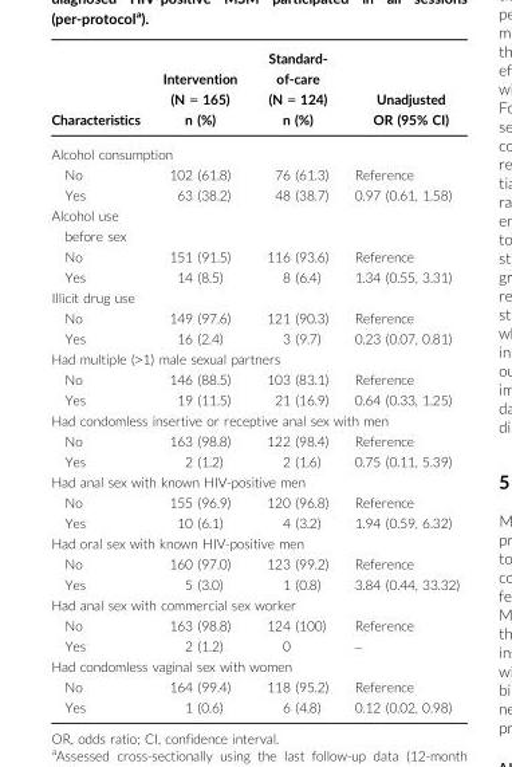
<table><thead><tr><td rowspan="2">Characteristics</td><td rowspan="2">Intervention (N = 165) n (%)</td><td rowspan="2">Standard- of-care (N = 124) n (%)</td><td rowspan="2">Unadjusted OR (95% CI)</td></tr><tr></tr></thead><tbody><tr><td colspan="4">Alcohol consumption</td></tr><tr><td>No</td><td>102 (61.8)</td><td>76 (61.3)</td><td>Reference</td></tr><tr><td>Yes</td><td>63 (38.2)</td><td>48 (38.7)</td><td>0.97 (0.61, 1.58)</td></tr><tr><td colspan="4">Alcohol use before sex</td></tr><tr><td>No</td><td>151 (91.5)</td><td>116 (93.6)</td><td>Reference</td></tr><tr><td>Yes</td><td>14 (8.5)</td><td>8 (6.4)</td><td>1.34 (0.55, 3.31)</td></tr><tr><td colspan="4">Illicit drug use</td></tr><tr><td>No</td><td>149 (97.6)</td><td>121 (90.3)</td><td>Reference</td></tr><tr><td>Yes</td><td>16 (2.4)</td><td>3 (9.7)</td><td>0.23 (0.07, 0.81)</td></tr><tr><td colspan="4">Had multiple (&gt;1) male sexual partners</td></tr><tr><td>No</td><td>146 (88.5)</td><td>103 (83.1)</td><td>Reference</td></tr><tr><td>Yes</td><td>19 (11.5)</td><td>21 (16.9)</td><td>0.64 (0.33, 1.25)</td></tr><tr><td colspan="4">Had condomless insertive or receptive anal sex with men</td></tr><tr><td>No</td><td>163 (98.8)</td><td>122 (98.4)</td><td>Reference</td></tr><tr><td>Yes</td><td>2 (1.2)</td><td>2 (1.6)</td><td>0.75 (0.11, 5.39)</td></tr><tr><td colspan="4">Had anal sex with known HIV-positive men</td></tr><tr><td>No</td><td>155 (96.9)</td><td>120 (96.8)</td><td>Reference</td></tr><tr><td>Yes</td><td>10 (6.1)</td><td>4 (3.2)</td><td>1.94 (0.59, 6.32)</td></tr><tr><td colspan="4">Had oral sex with known HIV-positive men</td></tr><tr><td>No</td><td>160 (97.0)</td><td>123 (99.2)</td><td>Reference</td></tr><tr><td>Yes</td><td>5 (3.0)</td><td>1 (0.8)</td><td>3.84 (0.44, 33.32)</td></tr><tr><td colspan="4">Had anal sex with commercial sex worker</td></tr><tr><td>No</td><td>163 (98.8)</td><td>124 (100)</td><td>Reference</td></tr><tr><td>Yes</td><td>2 (1.2)</td><td>0</td><td>–</td></tr><tr><td colspan="4">Had condomless vaginal sex with women</td></tr><tr><td>No</td><td>164 (99.4)</td><td>118 (95.2)</td><td>Reference</td></tr><tr><td>Yes</td><td>1 (0.6)</td><td>6 (4.8)</td><td>0.12 (0.02, 0.98)</td></tr></tbody></table>